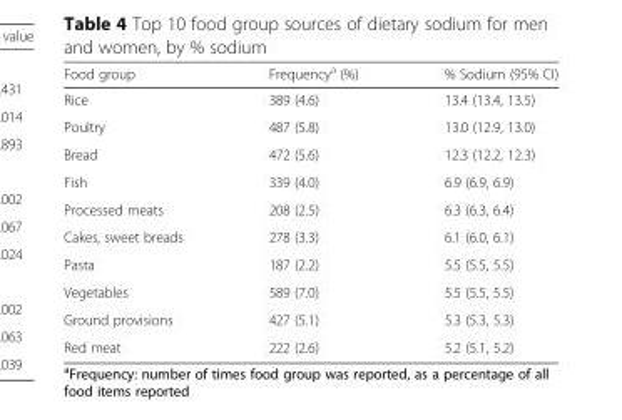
<table><thead><tr><td>Food group</td><td>Frequency<sup>a</sup> (%)</td><td>% Sodium (95% CI)</td></tr></thead><tbody><tr><td>Rice</td><td>389 (4.6)</td><td>13.4 (13.4, 13.5)</td></tr><tr><td>Poultry</td><td>487 (5.8)</td><td>13.0 (12.9, 13.0)</td></tr><tr><td>Bread</td><td>472 (5.6)</td><td>12.3 (12.2, 12.3)</td></tr><tr><td>Fish</td><td>339 (4.0)</td><td>6.9 (6.9, 6.9)</td></tr><tr><td>Processed meats</td><td>208 (2.5)</td><td>6.3 (6.3, 6.4)</td></tr><tr><td>Cakes, sweet breads</td><td>278 (3.3)</td><td>6.1 (6.0, 6.1)</td></tr><tr><td>Pasta</td><td>187 (2.2)</td><td>5.5 (5.5, 5.5)</td></tr><tr><td>Vegetables</td><td>589 (7.0)</td><td>5.5 (5.5, 5.5)</td></tr><tr><td>Ground provisions</td><td>427 (5.1)</td><td>5.3 (5.3, 5.3)</td></tr><tr><td>Red meat</td><td>222 (2.6)</td><td>5.2 (5.1, 5.2)</td></tr></tbody></table>